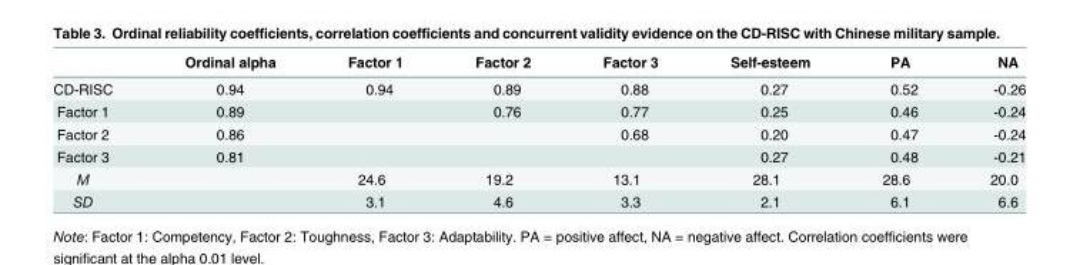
<table><thead><tr><td></td><td>Ordinal alpha</td><td>Factor 1</td><td>Factor 2</td><td>Factor 3</td><td>Self-esteem</td><td>PA</td><td>NA</td></tr></thead><tbody><tr><td>CD-RISC</td><td>0.94</td><td>0.94</td><td>0.89</td><td>0.88</td><td>0.27</td><td>0.52</td><td>-0.26</td></tr><tr><td>Factor 1</td><td>0.89</td><td></td><td>0.76</td><td>0.77</td><td>0.25</td><td>0.46</td><td>-0.24</td></tr><tr><td>Factor 2</td><td>0.86</td><td></td><td></td><td>0.68</td><td>0.20</td><td>0.47</td><td>-0.24</td></tr><tr><td>Factor 3</td><td>0.81</td><td></td><td></td><td></td><td>0.27</td><td>0.48</td><td>-0.21</td></tr><tr><td>M</td><td></td><td>24.6</td><td>19.2</td><td>13.1</td><td>28.1</td><td>28.6</td><td>20.0</td></tr><tr><td>SD</td><td></td><td>3.1</td><td>4.6</td><td>3.3</td><td>2.1</td><td>6.1</td><td>6.6</td></tr></tbody></table>